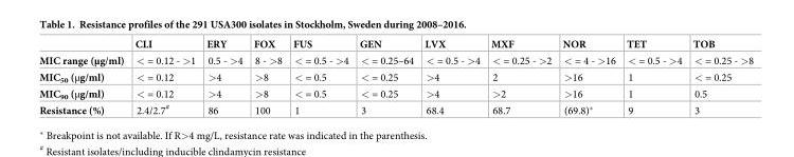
<table><thead><tr><td></td><td>CLI</td><td>ERY</td><td>FOX</td><td>FUS</td><td>GEN</td><td>LVX</td><td>MXF</td><td>NOR</td><td>TET</td><td>TOB</td></tr></thead><tbody><tr><td>MIC range (μg/ml)</td><td>&lt; = 0.12 - &gt;1</td><td>0.5 - &gt;4</td><td>8 - &gt;8</td><td>&lt; = 0.5 - &gt;4</td><td>&lt; = 0.25–64</td><td>&lt; = 0.5 - &gt;4</td><td>&lt; = 0.25 - &gt;2</td><td>&lt; = 4 - &gt;16</td><td>&lt; = 0.5 - &gt;4</td><td>&lt; = 0.25 - &gt;8</td></tr><tr><td>MIC<sub>50</sub> (μg/ml)</td><td>&lt; = 0.12</td><td>&gt;4</td><td>&gt;8</td><td>&lt; = 0.5</td><td>&lt; = 0.25</td><td>&gt;4</td><td>2</td><td>&gt;16</td><td>1</td><td>&lt; = 0.25</td></tr><tr><td>MIC<sub>90</sub> (μg/ml)</td><td>&lt; = 0.12</td><td>&gt;4</td><td>&gt;8</td><td>&lt; = 0.5</td><td>&lt; = 0.25</td><td>&gt;4</td><td>&gt;2</td><td>&gt;16</td><td>1</td><td>0.5</td></tr><tr><td>Resistance (%)</td><td>2.4/2.7<sup>#</sup></td><td>86</td><td>100</td><td>1</td><td>3</td><td>68.4</td><td>68.7</td><td>(69.8)*</td><td>9</td><td>3</td></tr></tbody></table>